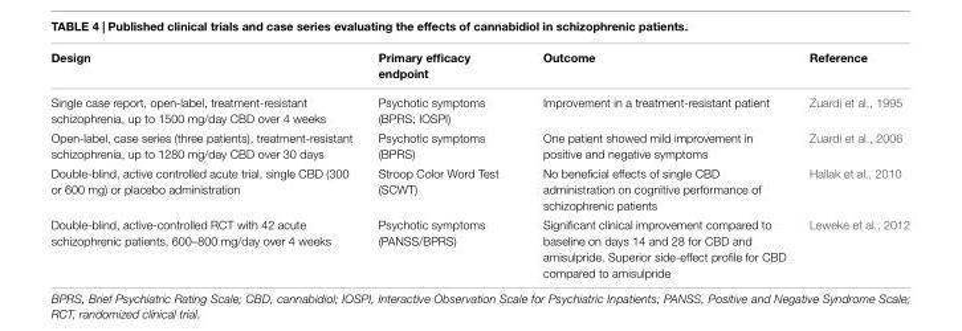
<table><thead><tr><td>Design</td><td>Primary efficacy endpoint</td><td>Outcome</td><td>Reference</td></tr></thead><tbody><tr><td>Single case report, open-label, treatment-resistant schizophrenia, up to 1500 mg/day CBD over 4 weeks</td><td>Psychotic symptoms (BPRS; IOSPI)</td><td>Improvement in a treatment-resistant patient</td><td>Zuardi et al., 1995</td></tr><tr><td>Open-label, case series (three patients), treatment-resistant schizophrenia, up to 1280 mg/day CBD over 30 days</td><td>Psychotic symptoms (BPRS)</td><td>One patient showed mild improvement in positive and negative symptoms</td><td>Zuardi et al., 2006</td></tr><tr><td>Double-blind, active controlled acute trial, single CBD (300 or 600 mg) or placebo administration</td><td>Stroop Color Word Test (SCWT)</td><td>No beneficial effects of single CBD administration on cognitive performance of schizophrenic patients</td><td>Hallak et al., 2010</td></tr><tr><td>Double-blind, active-controlled RCT with 42 acute schizophrenic patients, 600–800 mg/day over 4 weeks</td><td>Psychotic symptoms (PANSS/BPRS)</td><td>Significant clinical improvement compared to baseline on days 14 and 28 for CBD and amisulpride. Superior side-effect profile for CBD compared to amisulpride</td><td>Leweke et al., 2012</td></tr></tbody></table>